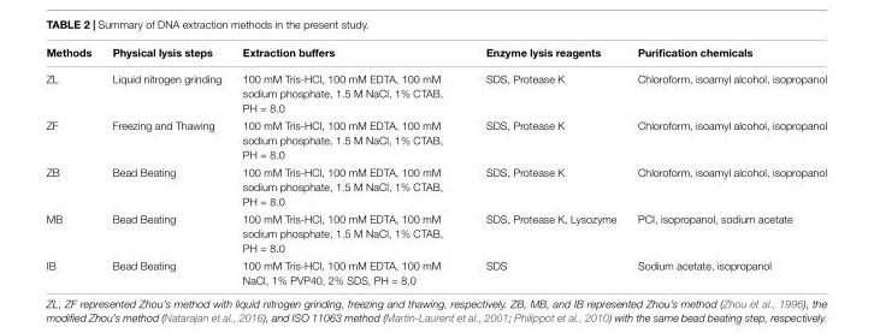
<table><thead><tr><td>Methods</td><td>Physical lysis steps</td><td>Extraction buffers</td><td>Enzyme lysis reagents</td><td>Purification chemicals</td></tr></thead><tbody><tr><td>ZL</td><td>Liquid nitrogen grinding</td><td>100 mM Tris-HCl, 100 mM EDTA, 100 mM sodium phosphate, 1.5 M NaCl, 1% CTAB, PH = 8.0</td><td>SDS, Protease K</td><td>Chloroform, isoamyl alcohol, isopropanol</td></tr><tr><td>ZF</td><td>Freezing and Thawing</td><td>100 mM Tris-HCl, 100 mM EDTA, 100 mM sodium phosphate, 1.5 M NaCl, 1% CTAB, PH = 8.0</td><td>SDS, Protease K</td><td>Chloroform, isoamyl alcohol, isopropanol</td></tr><tr><td>ZB</td><td>Bead Beating</td><td>100 mM Tris-HCl, 100 mM EDTA, 100 mM sodium phosphate, 1.5 M NaCl, 1% CTAB, PH = 8.0</td><td>SDS, Protease K</td><td>Chloroform, isoamyl alcohol, isopropanol</td></tr><tr><td>MB</td><td>Bead Beating</td><td>100 mM Tris-HCl, 100 mM EDTA, 100 mM sodium phosphate, 1.5 M NaCl, 1% CTAB, PH = 8.0</td><td>SDS, Protease K, Lysozyme</td><td>PCI, isopropanol, sodium acetate</td></tr><tr><td>IB</td><td>Bead Beating</td><td>100 mM Tris-HCl, 100 mM EDTA, 100 mM NaCl, 1% PVP40, 2% SDS, PH = 8.0</td><td>SDS</td><td>Sodium acetate, isopropanol</td></tr></tbody></table>